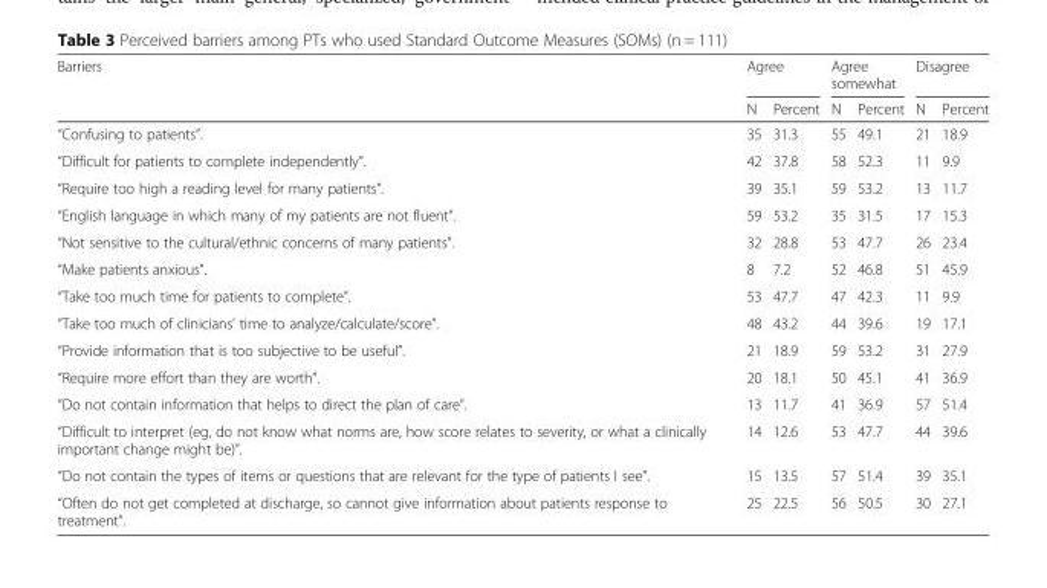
<table><thead><tr><td rowspan="2">Barriers</td><td colspan="2">Agree</td><td colspan="2">Agree somewhat</td><td colspan="2">Disagree</td></tr><tr><td>N</td><td>Percent</td><td>N</td><td>Percent</td><td>N</td><td>Percent</td></tr></thead><tbody><tr><td>“Confusing to patients”.</td><td>35</td><td>31.3</td><td>55</td><td>49.1</td><td>21</td><td>18.9</td></tr><tr><td>“Difficult for patients to complete independently”.</td><td>42</td><td>37.8</td><td>58</td><td>52.3</td><td>11</td><td>9.9</td></tr><tr><td>“Require too high a reading level for many patients”.</td><td>39</td><td>35.1</td><td>59</td><td>53.2</td><td>13</td><td>11.7</td></tr><tr><td>“English language in which many of my patients are not fluent”.</td><td>59</td><td>53.2</td><td>35</td><td>31.5</td><td>17</td><td>15.3</td></tr><tr><td>“Not sensitive to the cultural/ethnic concerns of many patients”.</td><td>32</td><td>28.8</td><td>53</td><td>47.7</td><td>26</td><td>23.4</td></tr><tr><td>“Make patients anxious”.</td><td>8</td><td>7.2</td><td>52</td><td>46.8</td><td>51</td><td>45.9</td></tr><tr><td>“Take too much time for patients to complete”.</td><td>53</td><td>47.7</td><td>47</td><td>42.3</td><td>11</td><td>9.9</td></tr><tr><td>“Take too much of clinicians’ time to analyze/calculate/score”.</td><td>48</td><td>43.2</td><td>44</td><td>39.6</td><td>19</td><td>17.1</td></tr><tr><td>“Provide information that is too subjective to be useful”.</td><td>21</td><td>18.9</td><td>59</td><td>53.2</td><td>31</td><td>27.9</td></tr><tr><td>“Require more effort than they are worth”.</td><td>20</td><td>18.1</td><td>50</td><td>45.1</td><td>41</td><td>36.9</td></tr><tr><td>“Do not contain information that helps to direct the plan of care”.</td><td>13</td><td>11.7</td><td>41</td><td>36.9</td><td>57</td><td>51.4</td></tr><tr><td>“Difficult to interpret (eg, do not know what norms are, how score relates to severity, or what a clinically important change might be)”.</td><td>14</td><td>12.6</td><td>53</td><td>47.7</td><td>44</td><td>39.6</td></tr><tr><td>“Do not contain the types of items or questions that are relevant for the type of patients I see”.</td><td>15</td><td>13.5</td><td>57</td><td>51.4</td><td>39</td><td>35.1</td></tr><tr><td>“Often do not get completed at discharge, so cannot give information about patients response to treatment”.</td><td>25</td><td>22.5</td><td>56</td><td>50.5</td><td>30</td><td>27.1</td></tr></tbody></table>